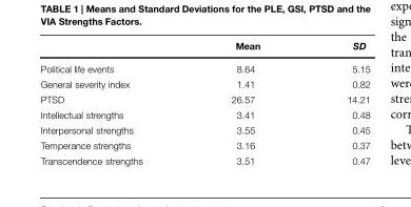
<table><thead><tr><td></td><td>Mean</td><td>SD</td></tr></thead><tbody><tr><td>Political life events</td><td>8.64</td><td>5.15</td></tr><tr><td>General severity index</td><td>1.41</td><td>0.82</td></tr><tr><td>PTSD</td><td>26.57</td><td>14.21</td></tr><tr><td>Intellectual strengths</td><td>3.41</td><td>0.48</td></tr><tr><td>Interpersonal strengths</td><td>3.55</td><td>0.45</td></tr><tr><td>Temperance strengths</td><td>3.16</td><td>0.37</td></tr><tr><td>Transcendence strengths</td><td>3.51</td><td>0.47</td></tr></tbody></table>